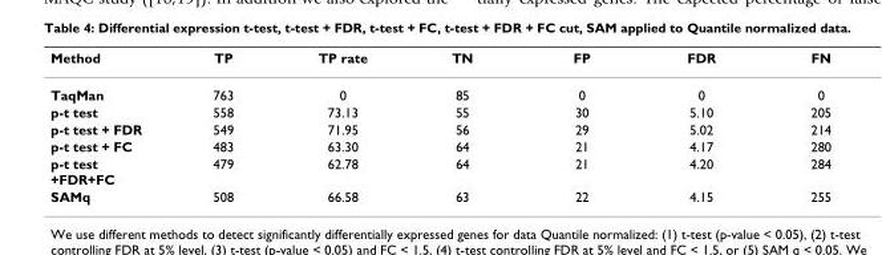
<table><thead><tr><td>Method</td><td>TP</td><td>TP rate</td><td>TN</td><td>FP</td><td>FDR</td><td>FN</td></tr></thead><tbody><tr><td>TaqMan</td><td>763</td><td>0</td><td>85</td><td>0</td><td>0</td><td>0</td></tr><tr><td>p-t test</td><td>558</td><td>73.13</td><td>55</td><td>30</td><td>5.10</td><td>205</td></tr><tr><td>p-t test + FDR</td><td>549</td><td>71.95</td><td>56</td><td>29</td><td>5.02</td><td>214</td></tr><tr><td>p-t test + FC</td><td>483</td><td>63.30</td><td>64</td><td>21</td><td>4.17</td><td>280</td></tr><tr><td>p-t test +FDR+FC</td><td>479</td><td>62.78</td><td>64</td><td>21</td><td>4.20</td><td>284</td></tr><tr><td>SAMq</td><td>508</td><td>66.58</td><td>63</td><td>22</td><td>4.15</td><td>255</td></tr></tbody></table>